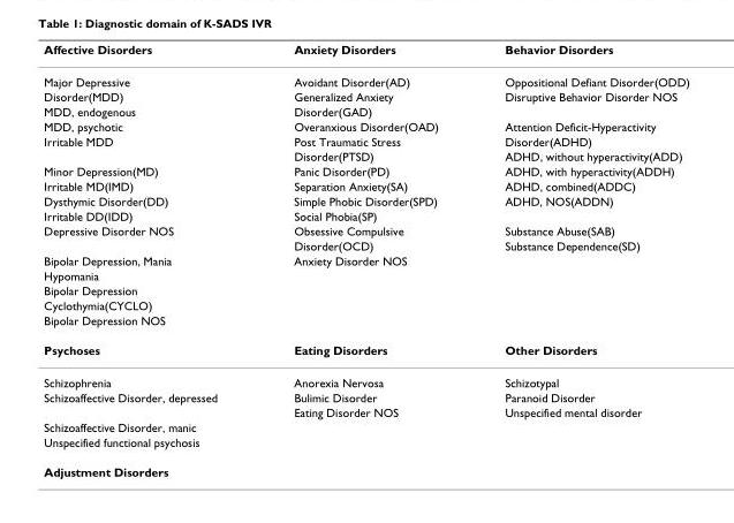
<table><thead><tr><td>Affective Disorders</td><td>Anxiety Disorders</td><td>Behavior Disorders</td></tr></thead><tbody><tr><td>Major Depressive</td><td>Avoidant Disorder(AD)</td><td>Oppositional Defiant Disorder(ODD)</td></tr><tr><td>Disorder(MDD)</td><td>Generalized Anxiety</td><td>Disruptive Behavior Disorder NOS</td></tr><tr><td>MDD, endogenous</td><td>Disorder(GAD)</td><td></td></tr><tr><td>MDD, psychotic</td><td>Overanxious Disorder(OAD)</td><td>Attention Deficit-Hyperactivity</td></tr><tr><td rowspan="2">Irritable MDD</td><td>Post Traumatic Stress</td><td>Disorder(ADHD)</td></tr><tr><td>Disorder(PTSD)</td><td>ADHD, without hyperactivity(ADD)</td></tr><tr><td>Minor Depression(MD)</td><td>Panic Disorder(PD)</td><td>ADHD, with hyperactivity(ADDH)</td></tr><tr><td>Irritable MD(IMD)</td><td>Separation Anxiety(SA)</td><td>ADHD, combined(ADDC)</td></tr><tr><td>Dysthymic Disorder(DD)</td><td>Simple Phobic Disorder(SPD)</td><td>ADHD, NOS(ADDN)</td></tr><tr><td>Irritable DD(IDD)</td><td>Social Phobia(SP)</td><td></td></tr><tr><td rowspan="2">Depressive Disorder NOS</td><td>Obsessive Compulsive</td><td>Substance Abuse(SAB)</td></tr><tr><td>Disorder(OCD)</td><td>Substance Dependence(SD)</td></tr><tr><td>Bipolar Depression, Mania</td><td>Anxiety Disorder NOS</td><td></td></tr><tr><td colspan="3">Hypomania</td></tr><tr><td colspan="3">Bipolar Depression</td></tr><tr><td colspan="3">Cyclothymia(CYCLO)</td></tr><tr><td colspan="3">Bipolar Depression NOS</td></tr><tr><td>Psychoses</td><td>Eating Disorders</td><td>Other Disorders</td></tr><tr><td>Schizophrenia</td><td>Anorexia Nervosa</td><td>Schizotypal</td></tr><tr><td rowspan="2">Schizoaffective Disorder, depressed</td><td>Bulimic Disorder</td><td>Paranoid Disorder</td></tr><tr><td>Eating Disorder NOS</td><td>Unspecified mental disorder</td></tr><tr><td colspan="3">Schizoaffective Disorder, manic</td></tr><tr><td colspan="3">Unspecified functional psychosis</td></tr><tr><td>Adjustment Disorders</td><td colspan="2"></td></tr></tbody></table>